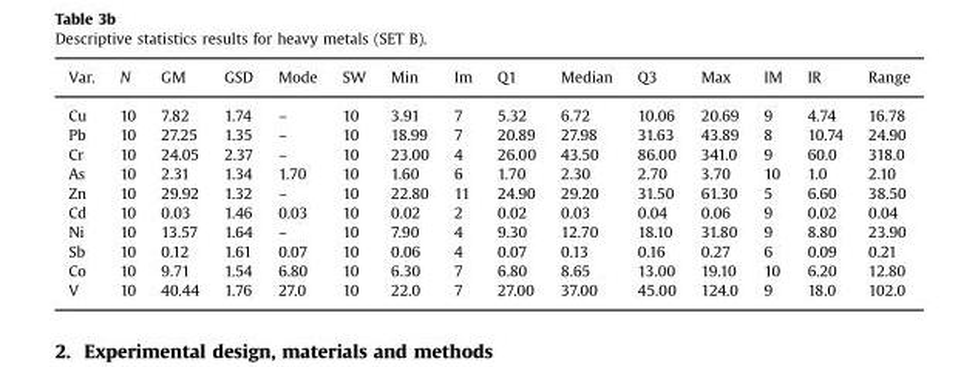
<table><thead><tr><td>Var.</td><td>N</td><td>GM</td><td>GSD</td><td>Mode</td><td>SW</td><td>Min</td><td>Im</td><td>Q1</td><td>Median</td><td>Q3</td><td>Max</td><td>IM</td><td>IR</td><td>Range</td></tr></thead><tbody><tr><td>Cu</td><td>10</td><td>7.82</td><td>1.74</td><td>–</td><td>10</td><td>3.91</td><td>7</td><td>5.32</td><td>6.72</td><td>10.06</td><td>20.69</td><td>9</td><td>4.74</td><td>16.78</td></tr><tr><td>Pb</td><td>10</td><td>27.25</td><td>1.35</td><td>–</td><td>10</td><td>18.99</td><td>7</td><td>20.89</td><td>27.98</td><td>31.63</td><td>43.89</td><td>8</td><td>10.74</td><td>24.90</td></tr><tr><td>Cr</td><td>10</td><td>24.05</td><td>2.37</td><td>–</td><td>10</td><td>23.00</td><td>4</td><td>26.00</td><td>43.50</td><td>86.00</td><td>341.0</td><td>9</td><td>60.0</td><td>318.0</td></tr><tr><td>As</td><td>10</td><td>2.31</td><td>1.34</td><td>1.70</td><td>10</td><td>1.60</td><td>6</td><td>1.70</td><td>2.30</td><td>2.70</td><td>3.70</td><td>10</td><td>1.0</td><td>2.10</td></tr><tr><td>Zn</td><td>10</td><td>29.92</td><td>1.32</td><td>–</td><td>10</td><td>22.80</td><td>11</td><td>24.90</td><td>29.20</td><td>31.50</td><td>61.30</td><td>5</td><td>6.60</td><td>38.50</td></tr><tr><td>Cd</td><td>10</td><td>0.03</td><td>1.46</td><td>0.03</td><td>10</td><td>0.02</td><td>2</td><td>0.02</td><td>0.03</td><td>0.04</td><td>0.06</td><td>9</td><td>0.02</td><td>0.04</td></tr><tr><td>Ni</td><td>10</td><td>13.57</td><td>1.64</td><td>–</td><td>10</td><td>7.90</td><td>4</td><td>9.30</td><td>12.70</td><td>18.10</td><td>31.80</td><td>9</td><td>8.80</td><td>23.90</td></tr><tr><td>Sb</td><td>10</td><td>0.12</td><td>1.61</td><td>0.07</td><td>10</td><td>0.06</td><td>4</td><td>0.07</td><td>0.13</td><td>0.16</td><td>0.27</td><td>6</td><td>0.09</td><td>0.21</td></tr><tr><td>Co</td><td>10</td><td>9.71</td><td>1.54</td><td>6.80</td><td>10</td><td>6.30</td><td>7</td><td>6.80</td><td>8.65</td><td>13.00</td><td>19.10</td><td>10</td><td>6.20</td><td>12.80</td></tr><tr><td>V</td><td>10</td><td>40.44</td><td>1.76</td><td>27.0</td><td>10</td><td>22.0</td><td>7</td><td>27.00</td><td>37.00</td><td>45.00</td><td>124.0</td><td>9</td><td>18.0</td><td>102.0</td></tr></tbody></table>